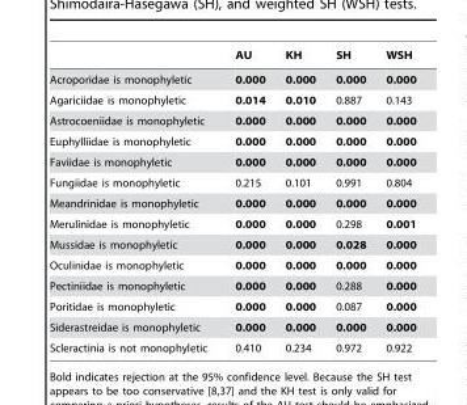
<table><thead><tr><td></td><td>AU</td><td>KH</td><td>SH</td><td>WSH</td></tr></thead><tbody><tr><td>Acroporidae is monophyletic</td><td>0.000</td><td>0.000</td><td>0.000</td><td>0.000</td></tr><tr><td>Agariciidae is monophyletic</td><td>0.014</td><td>0.010</td><td>0.887</td><td>0.143</td></tr><tr><td>Astrocoeniidae is monophyletic</td><td>0.000</td><td>0.000</td><td>0.000</td><td>0.000</td></tr><tr><td>Euphylliidae is monophyletic</td><td>0.000</td><td>0.000</td><td>0.000</td><td>0.000</td></tr><tr><td>Faviidae is monophyletic</td><td>0.000</td><td>0.000</td><td>0.000</td><td>0.000</td></tr><tr><td>Fungiidae is monophyletic</td><td>0.215</td><td>0.101</td><td>0.991</td><td>0.804</td></tr><tr><td>Meandrinidae is monophyletic</td><td>0.000</td><td>0.000</td><td>0.000</td><td>0.000</td></tr><tr><td>Merulinidae is monophyletic</td><td>0.000</td><td>0.000</td><td>0.298</td><td>0.001</td></tr><tr><td>Mussidae is monophyletic</td><td>0.000</td><td>0.000</td><td>0.028</td><td>0.000</td></tr><tr><td>Oculinidae is monophyletic</td><td>0.000</td><td>0.000</td><td>0.000</td><td>0.000</td></tr><tr><td>Pectiniidae is monophyletic</td><td>0.000</td><td>0.000</td><td>0.288</td><td>0.000</td></tr><tr><td>Poritidae is monophyletic</td><td>0.000</td><td>0.000</td><td>0.087</td><td>0.000</td></tr><tr><td>Siderastreidae is monophyletic</td><td>0.000</td><td>0.000</td><td>0.000</td><td>0.000</td></tr><tr><td>Scleractinia is not monophyletic</td><td>0.410</td><td>0.234</td><td>0.972</td><td>0.922</td></tr></tbody></table>